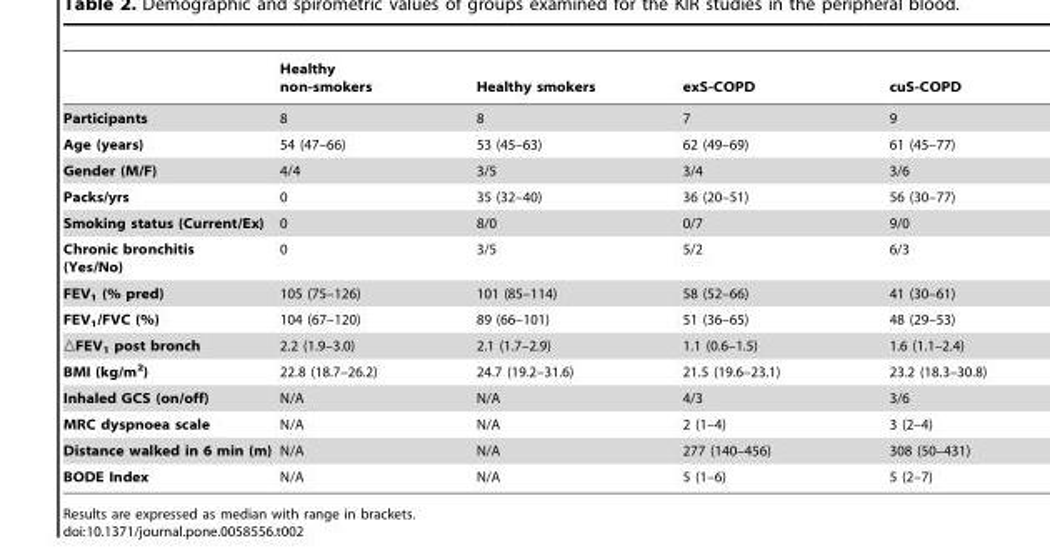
<table><thead><tr><td></td><td>Healthy non-smokers</td><td>Healthy smokers</td><td>exS-COPD</td><td>cuS-COPD</td></tr></thead><tbody><tr><td>Participants</td><td>8</td><td>8</td><td>7</td><td>9</td></tr><tr><td>Age (years)</td><td>54 (47–66)</td><td>53 (45–63)</td><td>62 (49–69)</td><td>61 (45–77)</td></tr><tr><td>Gender (M/F)</td><td>4/4</td><td>3/5</td><td>3/4</td><td>3/6</td></tr><tr><td>Packs/yrs</td><td>0</td><td>35 (32–40)</td><td>36 (20–51)</td><td>56 (30–77)</td></tr><tr><td>Smoking status (Current/Ex)</td><td>0</td><td>8/0</td><td>0/7</td><td>9/0</td></tr><tr><td>Chronic bronchitis (Yes/No)</td><td>0</td><td>3/5</td><td>5/2</td><td>6/3</td></tr><tr><td>FEV<sub>1</sub> (% pred)</td><td>105 (75–126)</td><td>101 (85–114)</td><td>58 (52–66)</td><td>41 (30–61)</td></tr><tr><td>FEV<sub>1</sub>/FVC (%)</td><td>104 (67–120)</td><td>89 (66–101)</td><td>51 (36–65)</td><td>48 (29–53)</td></tr><tr><td>▵FEV<sub>1</sub> post bronch</td><td>2.2 (1.9–3.0)</td><td>2.1 (1.7–2.9)</td><td>1.1 (0.6–1.5)</td><td>1.6 (1.1–2.4)</td></tr><tr><td>BMI (kg/m<sup>2</sup>)</td><td>22.8 (18.7–26.2)</td><td>24.7 (19.2–31.6)</td><td>21.5 (19.6–23.1)</td><td>23.2 (18.3–30.8)</td></tr><tr><td>Inhaled GCS (on/off)</td><td>N/A</td><td>N/A</td><td>4/3</td><td>3/6</td></tr><tr><td>MRC dyspnoea scale</td><td>N/A</td><td>N/A</td><td>2 (1–4)</td><td>3 (2–4)</td></tr><tr><td>Distance walked in 6 min (m)</td><td>N/A</td><td>N/A</td><td>277 (140–456)</td><td>308 (50–431)</td></tr><tr><td>BODE Index</td><td>N/A</td><td>N/A</td><td>5 (1–6)</td><td>5 (2–7)</td></tr></tbody></table>